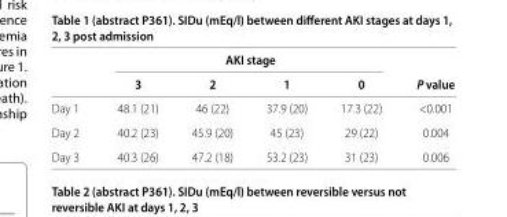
<table><thead><tr><td colspan="6">AKI stage</td></tr><tr><td></td><td>3</td><td>2</td><td>1</td><td>0</td><td>P value</td></tr></thead><tbody><tr><td>Day 1</td><td>48.1 (21)</td><td>46 (22)</td><td>37.9 (20)</td><td>17.3 (22)</td><td>&lt;0.001</td></tr><tr><td>Day 2</td><td>40.2 (23)</td><td>45.9 (20)</td><td>45 (23)</td><td>29 (22)</td><td>0.004</td></tr><tr><td>Day 3</td><td>40.3 (26)</td><td>47.2 (18)</td><td>53.2 (23)</td><td>31 (23)</td><td>0.006</td></tr></tbody></table>